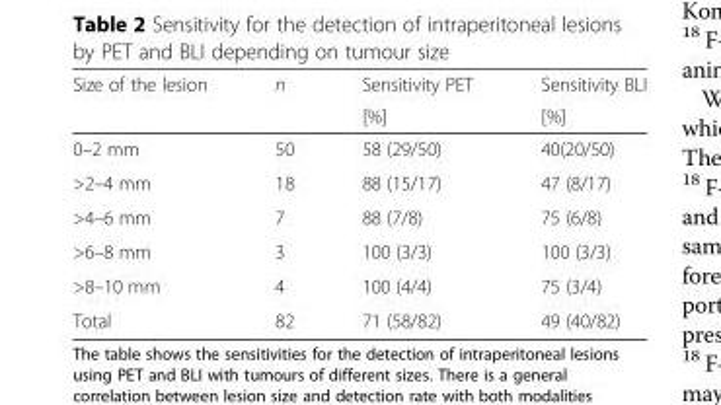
<table><thead><tr><td rowspan="2">Size of the lesion</td><td rowspan="2">n</td><td rowspan="2">Sensitivity PET [%]</td><td rowspan="2">Sensitivity BLI [%]</td></tr><tr></tr></thead><tbody><tr><td>0–2 mm</td><td>50</td><td>58 (29/50)</td><td>40(20/50)</td></tr><tr><td>&gt;2–4 mm</td><td>18</td><td>88 (15/17)</td><td>47 (8/17)</td></tr><tr><td>&gt;4–6 mm</td><td>7</td><td>88 (7/8)</td><td>75 (6/8)</td></tr><tr><td>&gt;6–8 mm</td><td>3</td><td>100 (3/3)</td><td>100 (3/3)</td></tr><tr><td>&gt;8–10 mm</td><td>4</td><td>100 (4/4)</td><td>75 (3/4)</td></tr><tr><td>Total</td><td>82</td><td>71 (58/82)</td><td>49 (40/82)</td></tr></tbody></table>